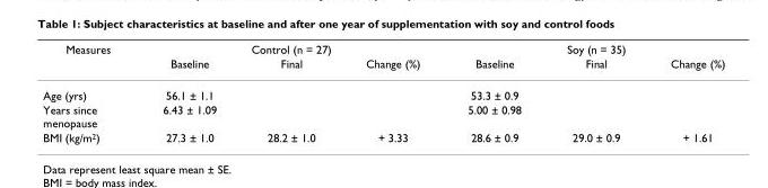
<table><thead><tr><td rowspan="2">Measures</td><td colspan="3">Control (n = 27)</td><td colspan="3">Soy (n = 35)</td></tr><tr><td>Baseline</td><td>Final</td><td>Change (%)</td><td>Baseline</td><td>Final</td><td>Change (%)</td></tr></thead><tbody><tr><td>Age (yrs)</td><td>56.1 ± 1.1</td><td></td><td></td><td>53.3 ± 0.9</td><td></td><td></td></tr><tr><td>Years since menopause</td><td>6.43 ± 1.09</td><td></td><td></td><td>5.00 ± 0.98</td><td></td><td></td></tr><tr><td>BMI (kg/m<sup>2</sup>)</td><td>27.3 ± 1.0</td><td>28.2 ± 1.0</td><td>+ 3.33</td><td>28.6 ± 0.9</td><td>29.0 ± 0.9</td><td>+ 1.61</td></tr></tbody></table>